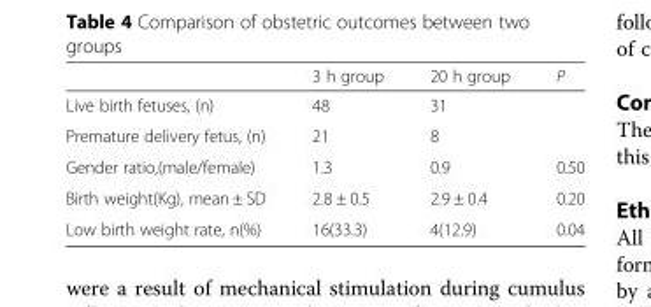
<table><thead><tr><td></td><td>3 h group</td><td>20 h group</td><td>P</td></tr></thead><tbody><tr><td>Live birth fetuses, (n)</td><td>48</td><td>31</td><td></td></tr><tr><td>Premature delivery fetus, (n)</td><td>21</td><td>8</td><td></td></tr><tr><td>Gender ratio,(male/female)</td><td>1.3</td><td>0.9</td><td>0.50</td></tr><tr><td>Birth weight(Kg), mean ± SD</td><td>2.8 ± 0.5</td><td>2.9 ± 0.4</td><td>0.20</td></tr><tr><td>Low birth weight rate, n(%)</td><td>16(33.3)</td><td>4(12.9)</td><td>0.04</td></tr></tbody></table>